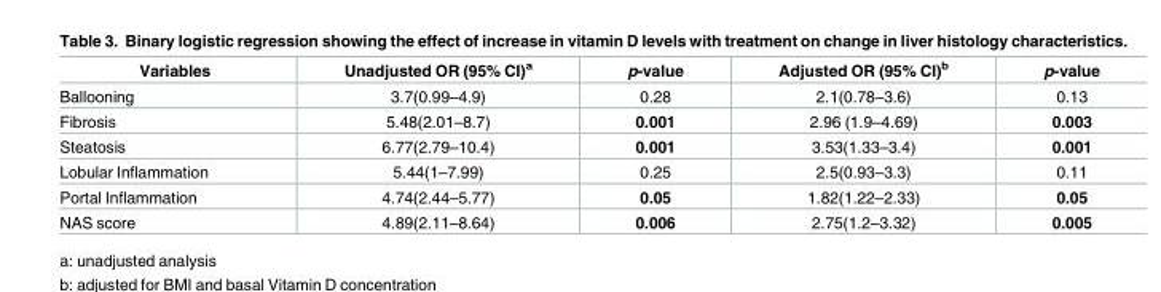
<table><thead><tr><td>Variables</td><td>Unadjusted OR (95% CI)<sup>a</sup></td><td>p-value</td><td>Adjusted OR (95% CI)<sup>b</sup></td><td>p-value</td></tr></thead><tbody><tr><td>Ballooning</td><td>3.7(0.99–4.9)</td><td>0.28</td><td>2.1(0.78–3.6)</td><td>0.13</td></tr><tr><td>Fibrosis</td><td>5.48(2.01–8.7)</td><td>0.001</td><td>2.96 (1.9–4.69)</td><td>0.003</td></tr><tr><td>Steatosis</td><td>6.77(2.79–10.4)</td><td>0.001</td><td>3.53(1.33–3.4)</td><td>0.001</td></tr><tr><td>Lobular Inflammation</td><td>5.44(1–7.99)</td><td>0.25</td><td>2.5(0.93–3.3)</td><td>0.11</td></tr><tr><td>Portal Inflammation</td><td>4.74(2.44–5.77)</td><td>0.05</td><td>1.82(1.22–2.33)</td><td>0.05</td></tr><tr><td>NAS score</td><td>4.89(2.11–8.64)</td><td>0.006</td><td>2.75(1.2–3.32)</td><td>0.005</td></tr></tbody></table>